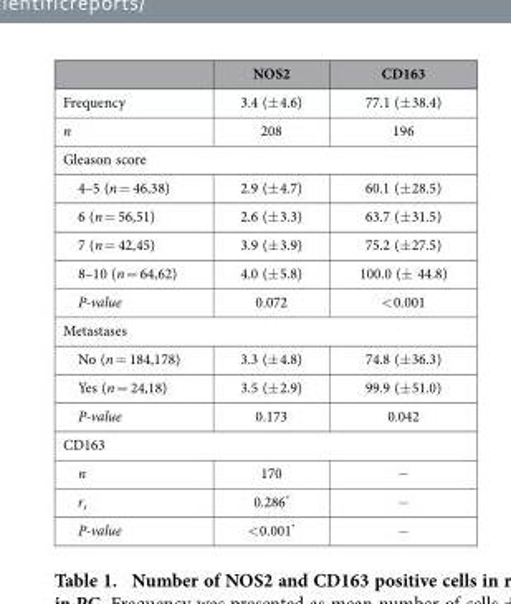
<table><thead><tr><td></td><td>NOS2</td><td>CD163</td></tr></thead><tbody><tr><td>Frequency</td><td>3.4 (± 4.6)</td><td>77.1 (± 38.4)</td></tr><tr><td>n</td><td>208</td><td>196</td></tr><tr><td colspan="3">Gleason score</td></tr><tr><td>4–5 (n = 46,38)</td><td>2.9 (± 4.7)</td><td>60.1 (± 28.5)</td></tr><tr><td>6 (n = 56,51)</td><td>2.6 (± 3.3)</td><td>63.7 (± 31.5)</td></tr><tr><td>7 (n = 42,45)</td><td>3.9 (± 3.9)</td><td>75.2 (± 27.5)</td></tr><tr><td>8–10 (n = 64,62)</td><td>4.0 (± 5.8)</td><td>100.0 (± 44.8)</td></tr><tr><td>P-value</td><td>0.072</td><td>&lt; 0.001</td></tr><tr><td colspan="3">Metastases</td></tr><tr><td>No (n = 184,178)</td><td>3.3 (± 4.8)</td><td>74.8 (± 36.3)</td></tr><tr><td>Yes (n = 24,18)</td><td>3.5 (± 2.9)</td><td>99.9 (± 51.0)</td></tr><tr><td>P-value</td><td>0.173</td><td>0.042</td></tr><tr><td colspan="3">CD163</td></tr><tr><td>n</td><td>170</td><td>−</td></tr><tr><td>r<sub>s</sub></td><td>0.286*</td><td>−</td></tr><tr><td>P-value</td><td>&lt; 0.001*</td><td>−</td></tr></tbody></table>